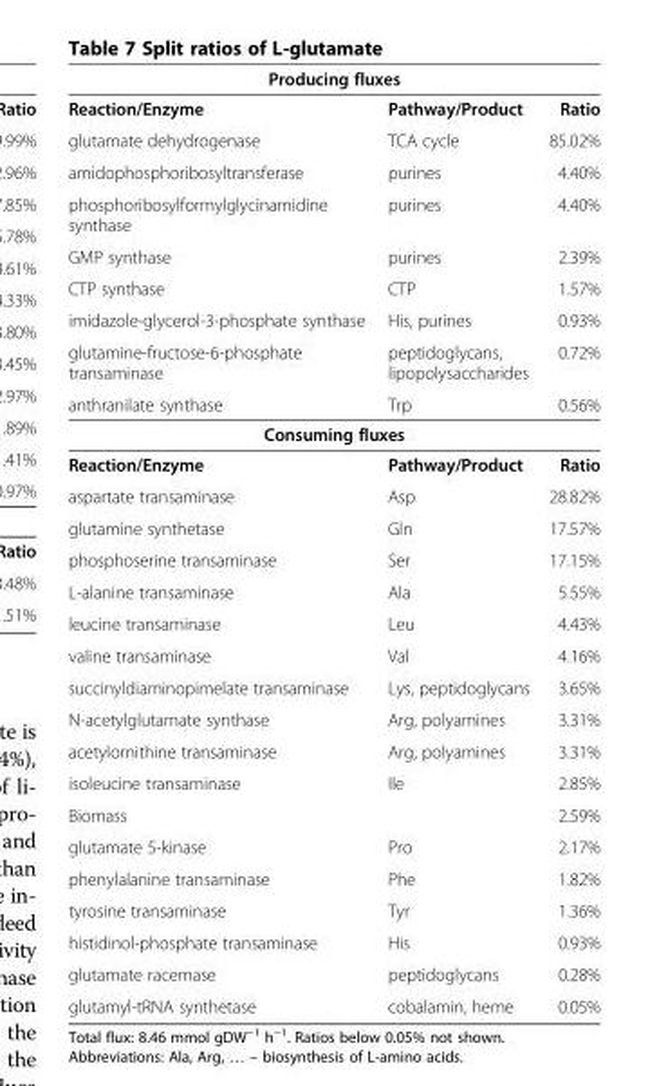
<table><tbody><tr><td colspan="3">Producing fluxes</td></tr><tr><td>Reaction/Enzyme</td><td>Pathway/Product</td><td>Ratio</td></tr><tr><td>glutamate dehydrogenase</td><td>TCA cycle</td><td>85.02%</td></tr><tr><td>amidophosphoribosyltransferase</td><td>purines</td><td>4.40%</td></tr><tr><td>phosphoribosylformylglycinamidine synthase</td><td>purines</td><td>4.40%</td></tr><tr><td>GMP synthase</td><td>purines</td><td>2.39%</td></tr><tr><td>CTP synthase</td><td>CTP</td><td>1.57%</td></tr><tr><td>imidazole-glycerol-3-phosphate synthase</td><td>His, purines</td><td>0.93%</td></tr><tr><td>glutamine-fructose-6-phosphate transaminase</td><td>peptidoglycans, lipopolysaccharides</td><td>0.72%</td></tr><tr><td>anthranilate synthase</td><td>Trp</td><td>0.56%</td></tr><tr><td colspan="3">Consuming fluxes</td></tr><tr><td>Reaction/Enzyme</td><td>Pathway/Product</td><td>Ratio</td></tr><tr><td>aspartate transaminase</td><td>Asp</td><td>28.82%</td></tr><tr><td>glutamine synthetase</td><td>Gln</td><td>17.57%</td></tr><tr><td>phosphoserine transaminase</td><td>Ser</td><td>17.15%</td></tr><tr><td>L-alanine transaminase</td><td>Ala</td><td>5.55%</td></tr><tr><td>leucine transaminase</td><td>Leu</td><td>4.43%</td></tr><tr><td>valine transaminase</td><td>Val</td><td>4.16%</td></tr><tr><td>succinyldiaminopimelate transaminase</td><td>Lys, peptidoglycans</td><td>3.65%</td></tr><tr><td>N-acetylglutamate synthase</td><td>Arg, polyamines</td><td>3.31%</td></tr><tr><td>acetylornithine transaminase</td><td>Arg, polyamines</td><td>3.31%</td></tr><tr><td>isoleucine transaminase</td><td>Ile</td><td>2.85%</td></tr><tr><td>Biomass</td><td></td><td>2.59%</td></tr><tr><td>glutamate 5-kinase</td><td>Pro</td><td>2.17%</td></tr><tr><td>phenylalanine transaminase</td><td>Phe</td><td>1.82%</td></tr><tr><td>tyrosine transaminase</td><td>Tyr</td><td>1.36%</td></tr><tr><td>histidinol-phosphate transaminase</td><td>His</td><td>0.93%</td></tr><tr><td>glutamate racemase</td><td>peptidoglycans</td><td>0.28%</td></tr><tr><td>glutamyl-tRNA synthetase</td><td>cobalamin, heme</td><td>0.05%</td></tr></tbody></table>